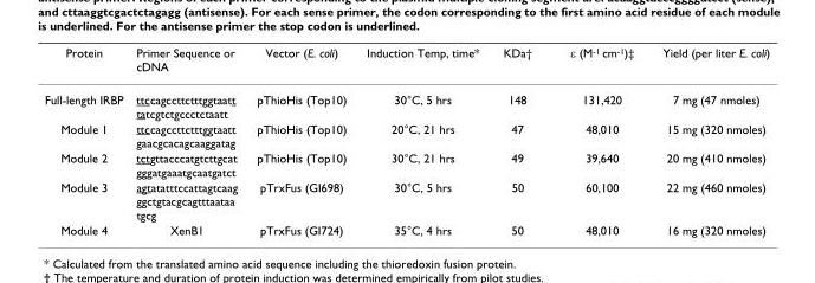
<table><thead><tr><td>Protein</td><td>Primer Sequence or cDNA</td><td>Vector (E. coli)</td><td>Induction Temp, time*</td><td>KDa†</td><td>ε (M<sup>-1</sup> cm<sup>-1</sup>)‡</td><td>Yield (per liter E. coli)</td></tr></thead><tbody><tr><td>Full-length IRBP</td><td>ttccagccttctttggtaatt tatcgtctgccctctaatt</td><td>pThioHis (Top10)</td><td>30°C, 5 hrs</td><td>148</td><td>131,420</td><td>7 mg (47 nmoles)</td></tr><tr><td>Module 1</td><td>ttccagccttctttggtaatt gaacgcacagcaaggatag</td><td>pThioHis (Top10)</td><td>20°C, 21 hrs</td><td>47</td><td>48,010</td><td>15 mg (320 nmoles)</td></tr><tr><td>Module 2</td><td>tctgttacccatgtcttgcat gggatgaaatgcaatgatct</td><td>pThioHis (Top10)</td><td>30°C, 21 hrs</td><td>49</td><td>39,640</td><td>20 mg (410 nmoles)</td></tr><tr><td>Module 3</td><td>agtatatttccattagtcaag ggctgtacgcagtttaataa tgcg</td><td>pTrxFus (GI698)</td><td>30°C, 5 hrs</td><td>50</td><td>60,100</td><td>22 mg (460 nmoles)</td></tr><tr><td>Module 4</td><td>XenB1</td><td>pTrxFus (GI724)</td><td>35°C, 4 hrs</td><td>50</td><td>48,010</td><td>16 mg (320 nmoles)</td></tr></tbody></table>